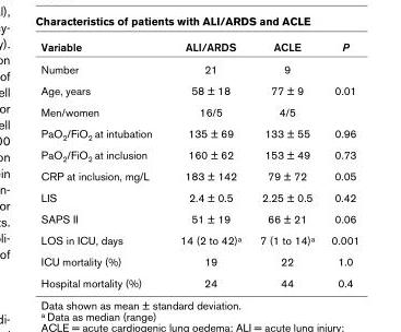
<table><thead><tr><td>Variable</td><td>ALI/ARDS</td><td>ACLE</td><td>P</td></tr></thead><tbody><tr><td>Number</td><td>21</td><td>9</td><td></td></tr><tr><td>Age, years</td><td>58 ± 18</td><td>77 ± 9</td><td>0.01</td></tr><tr><td>Men/women</td><td>16/5</td><td>4/5</td><td></td></tr><tr><td>PaO<sub>2</sub>/FiO<sub>2</sub> at intubation</td><td>135 ± 69</td><td>133 ± 55</td><td>0.96</td></tr><tr><td>PaO<sub>2</sub>/FiO<sub>2</sub> at inclusion</td><td>160 ± 62</td><td>153 ± 49</td><td>0.73</td></tr><tr><td>CRP at inclusion, mg/L</td><td>183 ± 142</td><td>79 ± 72</td><td>0.05</td></tr><tr><td>LIS</td><td>2.4 ± 0.5</td><td>2.25 ± 0.5</td><td>0.42</td></tr><tr><td>SAPS II</td><td>51 ± 19</td><td>66 ± 21</td><td>0.06</td></tr><tr><td>LOS in ICU, days</td><td>14 (2 to 42)<sup>a</sup></td><td>7 (1 to 14)<sup>a</sup></td><td>0.001</td></tr><tr><td>ICU mortality (%)</td><td>19</td><td>22</td><td>1.0</td></tr><tr><td>Hospital mortality (%)</td><td>24</td><td>44</td><td>0.4</td></tr></tbody></table>